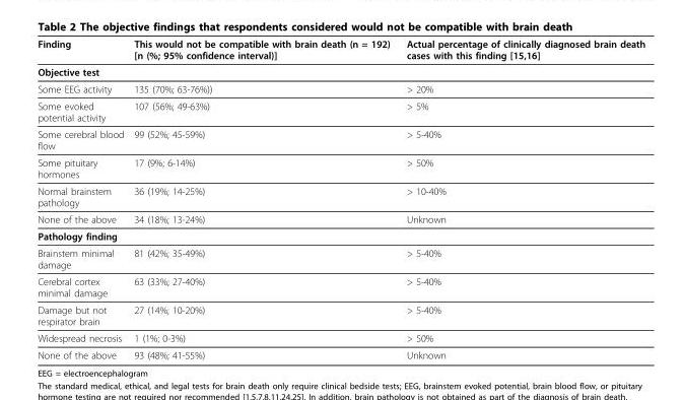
<table><thead><tr><td>Finding</td><td>This would not be compatible with brain death (n = 192) [n (%; 95% confidence interval)]</td><td>Actual percentage of clinically diagnosed brain death cases with this finding [15,16]</td></tr></thead><tbody><tr><td colspan="3">Objective test</td></tr><tr><td>Some EEG activity</td><td>135 (70%; 63-76%))</td><td>&gt; 20%</td></tr><tr><td>Some evoked potential activity</td><td>107 (56%; 49-63%)</td><td>&gt; 5%</td></tr><tr><td>Some cerebral blood flow</td><td>99 (52%; 45-59%)</td><td>&gt; 5-40%</td></tr><tr><td>Some pituitary hormones</td><td>17 (9%; 6-14%)</td><td>&gt; 50%</td></tr><tr><td>Normal brainstem pathology</td><td>36 (19%; 14-25%)</td><td>&gt; 10-40%</td></tr><tr><td>None of the above</td><td>34 (18%; 13-24%)</td><td>Unknown</td></tr><tr><td colspan="3">Pathology finding</td></tr><tr><td>Brainstem minimal damage</td><td>81 (42%; 35-49%)</td><td>&gt; 5-40%</td></tr><tr><td>Cerebral cortex minimal damage</td><td>63 (33%; 27-40%)</td><td>&gt; 5-40%</td></tr><tr><td>Damage but not respirator brain</td><td>27 (14%; 10-20%)</td><td>&gt; 5-40%</td></tr><tr><td>Widespread necrosis</td><td>1 (1%; 0-3%)</td><td>&gt; 50%</td></tr><tr><td>None of the above</td><td>93 (48%; 41-55%)</td><td>Unknown</td></tr></tbody></table>